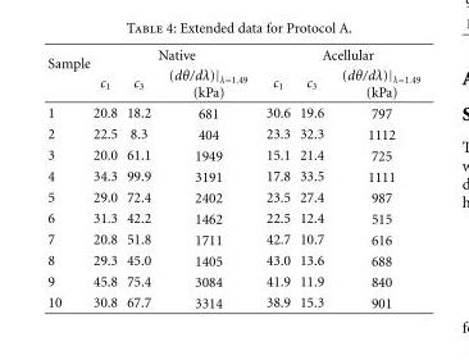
<table><thead><tr><td rowspan="2">Sample</td><td colspan="3">Native</td><td colspan="3">Acellular</td></tr><tr><td>c<sub>1</sub></td><td>c<sub>3</sub></td><td>(dθ/dλ)|<sub>λ=1.49</sub> (kPa)</td><td>c<sub>1</sub></td><td>c<sub>3</sub></td><td>(dθ/dλ)|<sub>λ=1.49</sub> (kPa)</td></tr></thead><tbody><tr><td>1</td><td>20.8</td><td>18.2</td><td>681</td><td>30.6</td><td>19.6</td><td>797</td></tr><tr><td>2</td><td>22.5</td><td>8.3</td><td>404</td><td>23.3</td><td>32.3</td><td>1112</td></tr><tr><td>3</td><td>20.0</td><td>61.1</td><td>1949</td><td>15.1</td><td>21.4</td><td>725</td></tr><tr><td>4</td><td>34.3</td><td>99.9</td><td>3191</td><td>17.8</td><td>33.5</td><td>1111</td></tr><tr><td>5</td><td>29.0</td><td>72.4</td><td>2402</td><td>23.5</td><td>27.4</td><td>987</td></tr><tr><td>6</td><td>31.3</td><td>42.2</td><td>1462</td><td>22.5</td><td>12.4</td><td>515</td></tr><tr><td>7</td><td>20.8</td><td>51.8</td><td>1711</td><td>42.7</td><td>10.7</td><td>616</td></tr><tr><td>8</td><td>29.3</td><td>45.0</td><td>1405</td><td>43.0</td><td>13.6</td><td>688</td></tr><tr><td>9</td><td>45.8</td><td>75.4</td><td>3084</td><td>41.9</td><td>11.9</td><td>840</td></tr><tr><td>10</td><td>30.8</td><td>67.7</td><td>3314</td><td>38.9</td><td>15.3</td><td>901</td></tr></tbody></table>